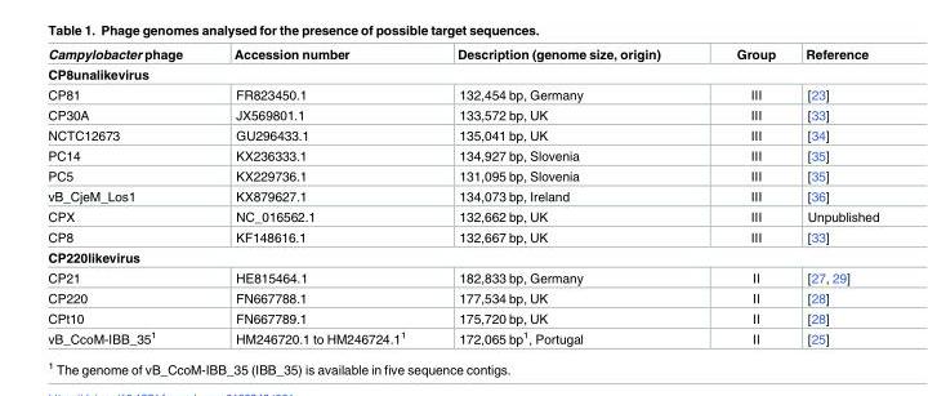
<table><thead><tr><td>Campylobacter phage</td><td>Accession number</td><td>Description (genome size, origin)</td><td>Group</td><td>Reference</td></tr></thead><tbody><tr><td colspan="5">CP8unalikevirus</td></tr><tr><td>CP81</td><td>FR823450.1</td><td>132,454 bp, Germany</td><td>III</td><td>[23]</td></tr><tr><td>CP30A</td><td>JX569801.1</td><td>133,572 bp, UK</td><td>III</td><td>[33]</td></tr><tr><td>NCTC12673</td><td>GU296433.1</td><td>135,041 bp, UK</td><td>III</td><td>[34]</td></tr><tr><td>PC14</td><td>KX236333.1</td><td>134,927 bp, Slovenia</td><td>III</td><td>[35]</td></tr><tr><td>PC5</td><td>KX229736.1</td><td>131,095 bp, Slovenia</td><td>III</td><td>[35]</td></tr><tr><td>vB_CjeM_Los1</td><td>KX879627.1</td><td>134,073 bp, Ireland</td><td>III</td><td>[36]</td></tr><tr><td>CPX</td><td>NC_016562.1</td><td>132,662 bp, UK</td><td>III</td><td>Unpublished</td></tr><tr><td>CP8</td><td>KF148616.1</td><td>132,667 bp, UK</td><td>III</td><td>[33]</td></tr><tr><td colspan="5">CP220likevirus</td></tr><tr><td>CP21</td><td>HE815464.1</td><td>182,833 bp, Germany</td><td>II</td><td>[27, 29]</td></tr><tr><td>CP220</td><td>FN667788.1</td><td>177,534 bp, UK</td><td>II</td><td>[28]</td></tr><tr><td>CPt10</td><td>FN667789.1</td><td>175,720 bp, UK</td><td>II</td><td>[28]</td></tr><tr><td>vB_CcoM-IBB_35<sup>1</sup></td><td>HM246720.1 to HM246724.1<sup>1</sup></td><td>172,065 bp<sup>1</sup>, Portugal</td><td>II</td><td>[25]</td></tr></tbody></table>